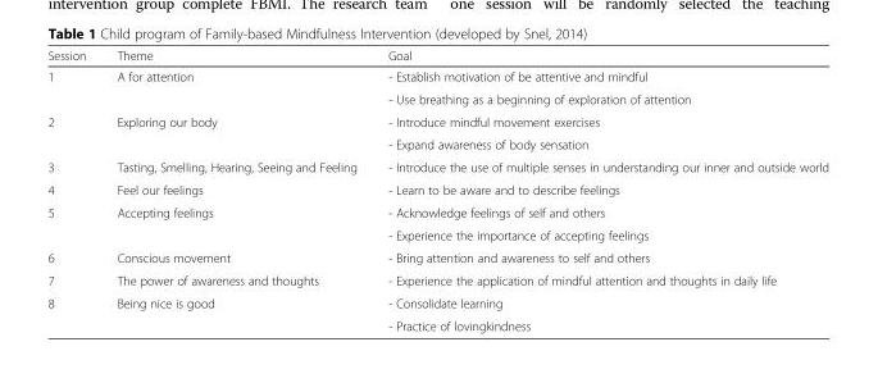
<table><thead><tr><td>Session</td><td>Theme</td><td>Goal</td></tr></thead><tbody><tr><td rowspan="2">1</td><td rowspan="2">A for attention</td><td>- Establish motivation of be attentive and mindful</td></tr><tr><td>- Use breathing as a beginning of exploration of attention</td></tr><tr><td rowspan="2">2</td><td rowspan="2">Exploring our body</td><td>- Introduce mindful movement exercises</td></tr><tr><td>- Expand awareness of body sensation</td></tr><tr><td>3</td><td>Tasting, Smelling, Hearing, Seeing and Feeling</td><td>- Introduce the use of multiple senses in understanding our inner and outside world</td></tr><tr><td>4</td><td>Feel our feelings</td><td>- Learn to be aware and to describe feelings</td></tr><tr><td rowspan="2">5</td><td rowspan="2">Accepting feelings</td><td>- Acknowledge feelings of self and others</td></tr><tr><td>- Experience the importance of accepting feelings</td></tr><tr><td>6</td><td>Conscious movement</td><td>- Bring attention and awareness to self and others</td></tr><tr><td>7</td><td>The power of awareness and thoughts</td><td>- Experience the application of mindful attention and thoughts in daily life</td></tr><tr><td rowspan="2">8</td><td rowspan="2">Being nice is good</td><td>- Consolidate learning</td></tr><tr><td>- Practice of lovingkindness</td></tr></tbody></table>